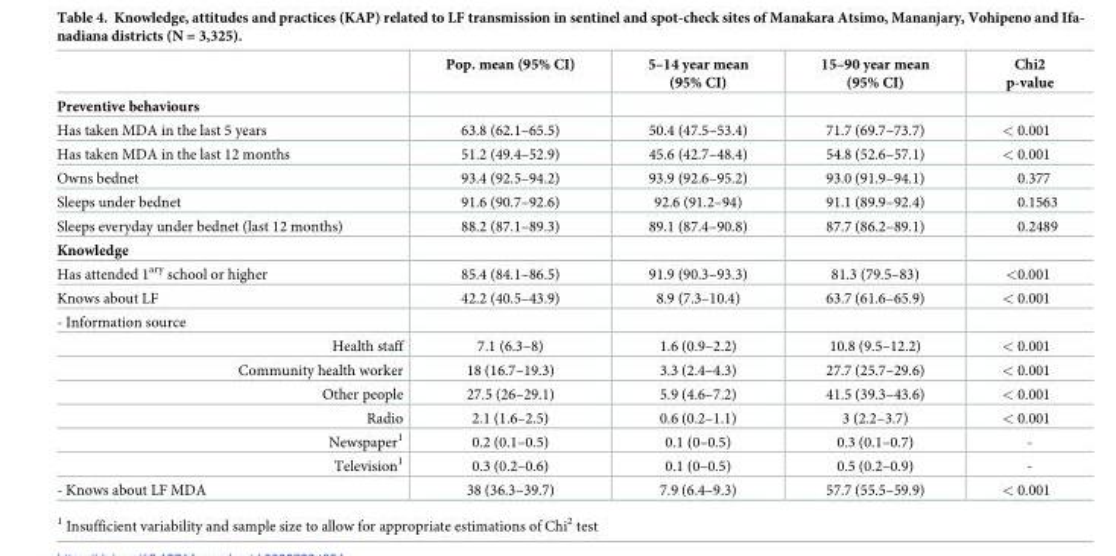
<table><thead><tr><td></td><td>Pop. mean (95% CI)</td><td>5–14 year mean (95% CI)</td><td>15–90 year mean (95% CI)</td><td>Chi2 p-value</td></tr></thead><tbody><tr><td colspan="5">Preventive behaviours</td></tr><tr><td>Has taken MDA in the last 5 years</td><td>63.8 (62.1–65.5)</td><td>50.4 (47.5–53.4)</td><td>71.7 (69.7–73.7)</td><td>&lt; 0.001</td></tr><tr><td>Has taken MDA in the last 12 months</td><td>51.2 (49.4–52.9)</td><td>45.6 (42.7–48.4)</td><td>54.8 (52.6–57.1)</td><td>&lt; 0.001</td></tr><tr><td>Owns bednet</td><td>93.4 (92.5–94.2)</td><td>93.9 (92.6–95.2)</td><td>93.0 (91.9–94.1)</td><td>0.377</td></tr><tr><td>Sleeps under bednet</td><td>91.6 (90.7–92.6)</td><td>92.6 (91.2–94)</td><td>91.1 (89.9–92.4)</td><td>0.1563</td></tr><tr><td>Sleeps everyday under bednet (last 12 months)</td><td>88.2 (87.1–89.3)</td><td>89.1 (87.4–90.8)</td><td>87.7 (86.2–89.1)</td><td>0.2489</td></tr><tr><td colspan="5">Knowledge</td></tr><tr><td>Has attended 1<sup>ary</sup> school or higher</td><td>85.4 (84.1–86.5)</td><td>91.9 (90.3–93.3)</td><td>81.3 (79.5–83)</td><td>&lt;0.001</td></tr><tr><td>Knows about LF</td><td>42.2 (40.5–43.9)</td><td>8.9 (7.3–10.4)</td><td>63.7 (61.6–65.9)</td><td>&lt; 0.001</td></tr><tr><td colspan="5">- Information source</td></tr><tr><td>Health staff</td><td>7.1 (6.3–8)</td><td>1.6 (0.9–2.2)</td><td>10.8 (9.5–12.2)</td><td>&lt; 0.001</td></tr><tr><td>Community health worker</td><td>18 (16.7–19.3)</td><td>3.3 (2.4–4.3)</td><td>27.7 (25.7–29.6)</td><td>&lt; 0.001</td></tr><tr><td>Other people</td><td>27.5 (26–29.1)</td><td>5.9 (4.6–7.2)</td><td>41.5 (39.3–43.6)</td><td>&lt; 0.001</td></tr><tr><td>Radio</td><td>2.1 (1.6–2.5)</td><td>0.6 (0.2–1.1)</td><td>3 (2.2–3.7)</td><td>&lt; 0.001</td></tr><tr><td>Newspaper<sup>1</sup></td><td>0.2 (0.1–0.5)</td><td>0.1 (0–0.5)</td><td>0.3 (0.1–0.7)</td><td>-</td></tr><tr><td>Television<sup>1</sup></td><td>0.3 (0.2–0.6)</td><td>0.1 (0–0.5)</td><td>0.5 (0.2–0.9)</td><td>-</td></tr><tr><td>- Knows about LF MDA</td><td>38 (36.3–39.7)</td><td>7.9 (6.4–9.3)</td><td>57.7 (55.5–59.9)</td><td>&lt; 0.001</td></tr></tbody></table>